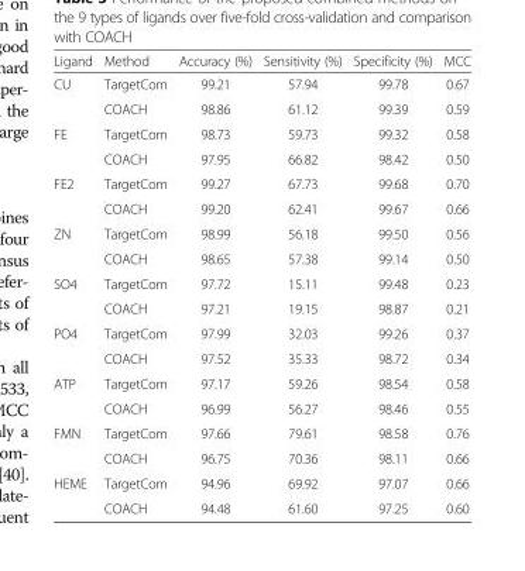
<table><thead><tr><td>Ligand</td><td>Method</td><td>Accuracy (%)</td><td>Sensitivity (%)</td><td>Specificity (%)</td><td>MCC</td></tr></thead><tbody><tr><td rowspan="2">CU</td><td>TargetCom</td><td>99.21</td><td>57.94</td><td>99.78</td><td>0.67</td></tr><tr><td>COACH</td><td>98.86</td><td>61.12</td><td>99.39</td><td>0.59</td></tr><tr><td rowspan="2">FE</td><td>TargetCom</td><td>98.73</td><td>59.73</td><td>99.32</td><td>0.58</td></tr><tr><td>COACH</td><td>97.95</td><td>66.82</td><td>98.42</td><td>0.50</td></tr><tr><td rowspan="2">FE2</td><td>TargetCom</td><td>99.27</td><td>67.73</td><td>99.68</td><td>0.70</td></tr><tr><td>COACH</td><td>99.20</td><td>62.41</td><td>99.67</td><td>0.66</td></tr><tr><td rowspan="2">ZN</td><td>TargetCom</td><td>98.99</td><td>56.18</td><td>99.50</td><td>0.56</td></tr><tr><td>COACH</td><td>98.65</td><td>57.38</td><td>99.14</td><td>0.50</td></tr><tr><td rowspan="2">SO4</td><td>TargetCom</td><td>97.72</td><td>15.11</td><td>99.48</td><td>0.23</td></tr><tr><td>COACH</td><td>97.21</td><td>19.15</td><td>98.87</td><td>0.21</td></tr><tr><td rowspan="2">PO4</td><td>TargetCom</td><td>97.99</td><td>32.03</td><td>99.26</td><td>0.37</td></tr><tr><td>COACH</td><td>97.52</td><td>35.33</td><td>98.72</td><td>0.34</td></tr><tr><td rowspan="2">ATP</td><td>TargetCom</td><td>97.17</td><td>59.26</td><td>98.54</td><td>0.58</td></tr><tr><td>COACH</td><td>96.99</td><td>56.27</td><td>98.46</td><td>0.55</td></tr><tr><td rowspan="2">FMN</td><td>TargetCom</td><td>97.66</td><td>79.61</td><td>98.58</td><td>0.76</td></tr><tr><td>COACH</td><td>96.75</td><td>70.36</td><td>98.11</td><td>0.66</td></tr><tr><td rowspan="2">HEME</td><td>TargetCom</td><td>94.96</td><td>69.92</td><td>97.07</td><td>0.66</td></tr><tr><td>COACH</td><td>94.48</td><td>61.60</td><td>97.25</td><td>0.60</td></tr></tbody></table>